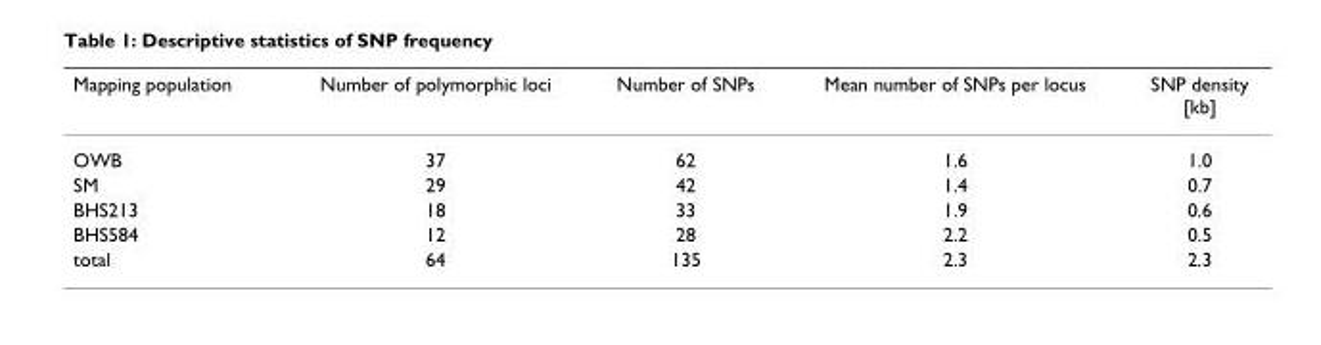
<table><thead><tr><td>Mapping population</td><td>Number of polymorphic loci</td><td>Number of SNPs</td><td>Mean number of SNPs per locus</td><td>SNP density [kb]</td></tr></thead><tbody><tr><td>OWB</td><td>37</td><td>62</td><td>1.6</td><td>1.0</td></tr><tr><td>SM</td><td>29</td><td>42</td><td>1.4</td><td>0.7</td></tr><tr><td>BHS213</td><td>18</td><td>33</td><td>1.9</td><td>0.6</td></tr><tr><td>BHS584</td><td>12</td><td>28</td><td>2.2</td><td>0.5</td></tr><tr><td>total</td><td>64</td><td>135</td><td>2.3</td><td>2.3</td></tr></tbody></table>